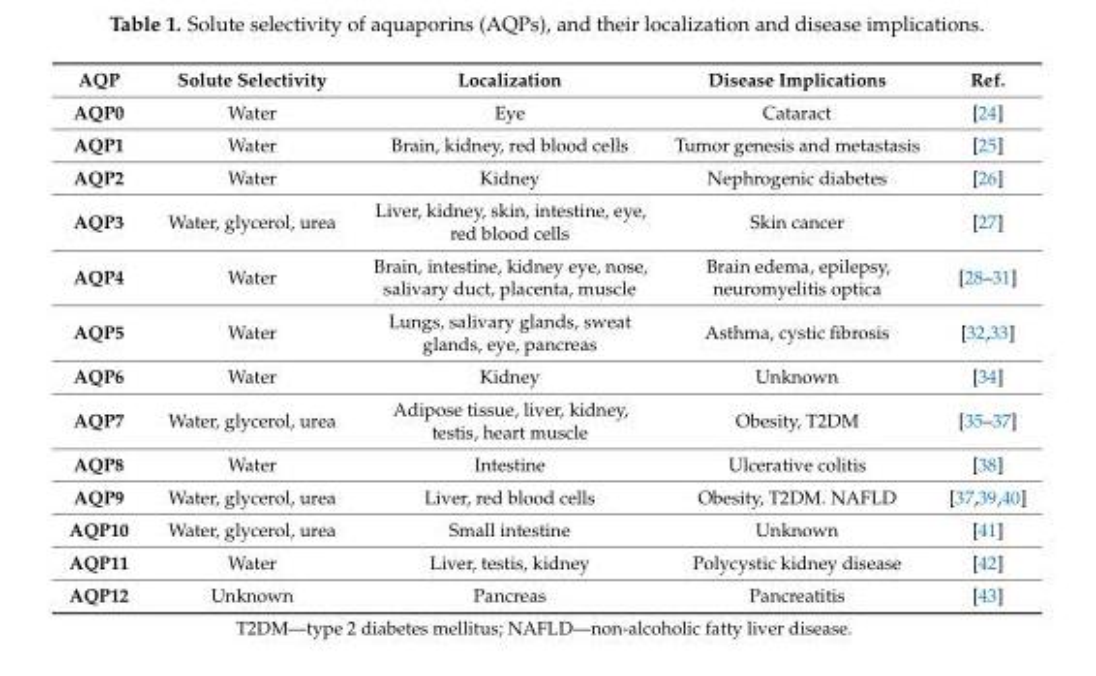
<table><thead><tr><td>AQP</td><td>Solute Selectivity</td><td>Localization</td><td>Disease Implications</td><td>Ref.</td></tr></thead><tbody><tr><td>AQP0</td><td>Water</td><td>Eye</td><td>Cataract</td><td>[24]</td></tr><tr><td>AQP1</td><td>Water</td><td>Brain, kidney, red blood cells</td><td>Tumor genesis and metastasis</td><td>[25]</td></tr><tr><td>AQP2</td><td>Water</td><td>Kidney</td><td>Nephrogenic diabetes</td><td>[26]</td></tr><tr><td>AQP3</td><td>Water, glycerol, urea</td><td>Liver, kidney, skin, intestine, eye, red blood cells</td><td>Skin cancer</td><td>[27]</td></tr><tr><td>AQP4</td><td>Water</td><td>Brain, intestine, kidney eye, nose, salivary duct, placenta, muscle</td><td>Brain edema, epilepsy, neuromyelitis optica</td><td>[28–31]</td></tr><tr><td>AQP5</td><td>Water</td><td>Lungs, salivary glands, sweat glands, eye, pancreas</td><td>Asthma, cystic fibrosis</td><td>[32,33]</td></tr><tr><td>AQP6</td><td>Water</td><td>Kidney</td><td>Unknown</td><td>[34]</td></tr><tr><td>AQP7</td><td>Water, glycerol, urea</td><td>Adipose tissue, liver, kidney, testis, heart muscle</td><td>Obesity, T2DM</td><td>[35–37]</td></tr><tr><td>AQP8</td><td>Water</td><td>Intestine</td><td>Ulcerative colitis</td><td>[38]</td></tr><tr><td>AQP9</td><td>Water, glycerol, urea</td><td>Liver, red blood cells</td><td>Obesity, T2DM. NAFLD</td><td>[37,39,40]</td></tr><tr><td>AQP10</td><td>Water, glycerol, urea</td><td>Small intestine</td><td>Unknown</td><td>[41]</td></tr><tr><td>AQP11</td><td>Water</td><td>Liver, testis, kidney</td><td>Polycystic kidney disease</td><td>[42]</td></tr><tr><td>AQP12</td><td>Unknown</td><td>Pancreas</td><td>Pancreatitis</td><td>[43]</td></tr></tbody></table>